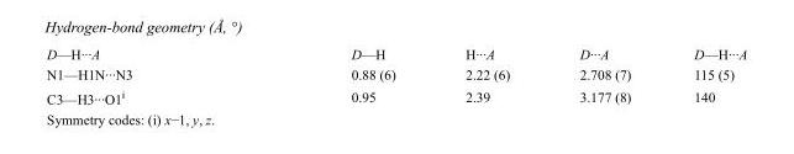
<table><tbody><tr><td>D—H···A</td><td>D—H</td><td>H···A</td><td>D···A</td><td>D—H···A</td></tr><tr><td>N1—H1N···N3</td><td>0.88 (6)</td><td>2.22 (6)</td><td>2.708 (7)</td><td>115 (5)</td></tr><tr><td>C3—H3···O1<sup>i</sup></td><td>0.95</td><td>2.39</td><td>3.177 (8)</td><td>140</td></tr></tbody></table>